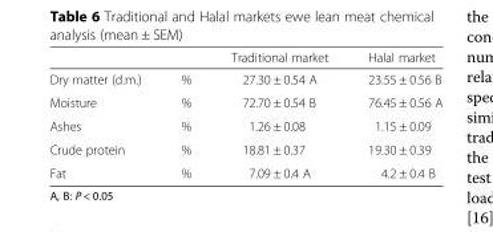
<table><thead><tr><td></td><td></td><td>Traditional market</td><td>Halal market</td></tr></thead><tbody><tr><td>Dry matter (d.m.)</td><td>%</td><td>27.30 ± 0.54 A</td><td>23.55 ± 0.56 B</td></tr><tr><td>Moisture</td><td>%</td><td>72.70 ± 0.54 B</td><td>76.45 ± 0.56 A</td></tr><tr><td>Ashes</td><td>%</td><td>1.26 ± 0.08</td><td>1.15 ± 0.09</td></tr><tr><td>Crude protein</td><td>%</td><td>18.81 ± 0.37</td><td>19.30 ± 0.39</td></tr><tr><td>Fat</td><td>%</td><td>7.09 ± 0.4 A</td><td>4.2 ± 0.4 B</td></tr></tbody></table>